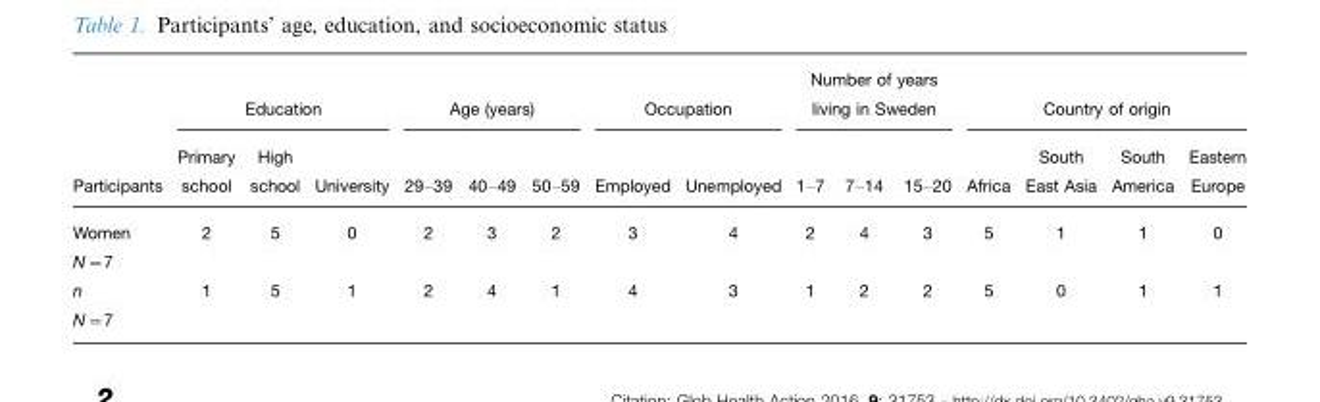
<table><thead><tr><td rowspan="2">Participants</td><td colspan="3">Education</td><td colspan="3">Age (years)</td><td colspan="2">Occupation</td><td colspan="3">Number of years living in Sweden</td><td colspan="4">Country of origin</td></tr><tr><td>Primary school</td><td>High school</td><td>University</td><td>29–39</td><td>40–49</td><td>50–59</td><td>Employed</td><td>Unemployed</td><td>1–7</td><td>7–14</td><td>15–20</td><td>Africa</td><td>South East Asia</td><td>South America</td><td>Eastern Europe</td></tr></thead><tbody><tr><td>Women N=7</td><td>2</td><td>5</td><td>0</td><td>2</td><td>3</td><td>2</td><td>3</td><td>4</td><td>2</td><td>4</td><td>3</td><td>5</td><td>1</td><td>1</td><td>0</td></tr><tr><td>n N=7</td><td>1</td><td>5</td><td>1</td><td>2</td><td>4</td><td>1</td><td>4</td><td>3</td><td>1</td><td>2</td><td>2</td><td>5</td><td>0</td><td>1</td><td>1</td></tr></tbody></table>